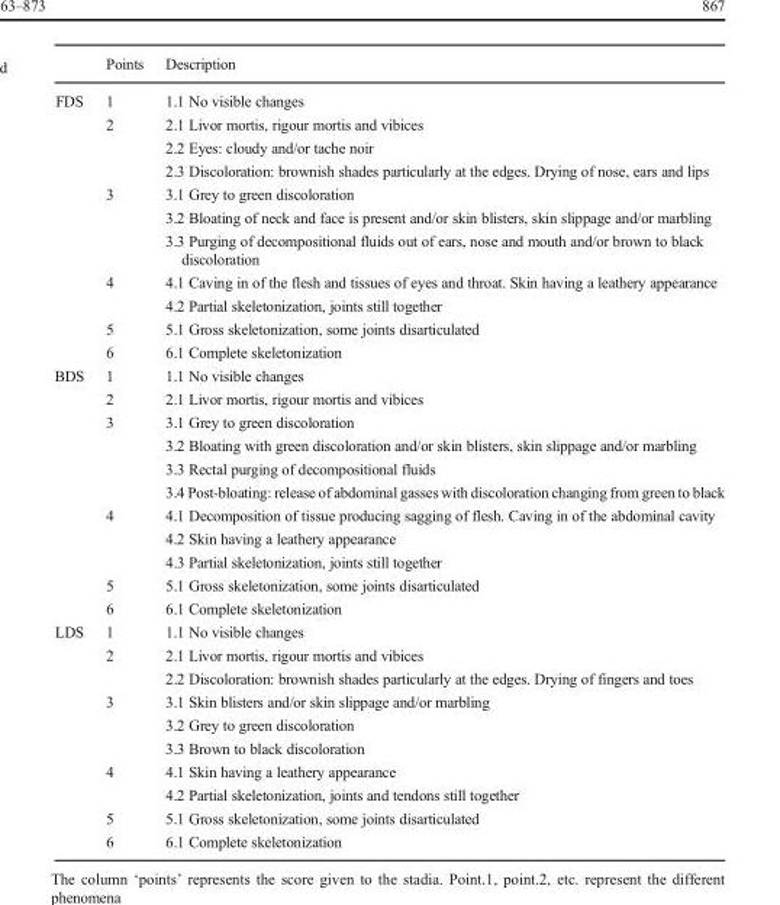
<table><thead><tr><td></td><td>Points</td><td>Description</td></tr></thead><tbody><tr><td rowspan="11">FDS</td><td>1</td><td>1.1 No visible changes</td></tr><tr><td rowspan="3">2</td><td>2.1 Livor mortis, rigour mortis and vibices</td></tr><tr><td>2.2 Eyes: cloudy and/or tache noir</td></tr><tr><td>2.3 Discoloration: brownish shades particularly at the edges. Drying of nose, ears and lips</td></tr><tr><td rowspan="3">3</td><td>3.1 Grey to green discoloration</td></tr><tr><td>3.2 Bloating of neck and face is present and/or skin blisters, skin slippage and/or marbling</td></tr><tr><td>3.3 Purging of decompositional fluids out of ears, nose and mouth and/or brown to black discoloration</td></tr><tr><td rowspan="2">4</td><td>4.1 Caving in of the flesh and tissues of eyes and throat. Skin having a leathery appearance</td></tr><tr><td>4.2 Partial skeletonization, joints still together</td></tr><tr><td>5</td><td>5.1 Gross skeletonization, some joints disarticulated</td></tr><tr><td>6</td><td>6.1 Complete skeletonization</td></tr><tr><td rowspan="11">BDS</td><td>1</td><td>1.1 No visible changes</td></tr><tr><td>2</td><td>2.1 Livor mortis, rigour mortis and vibices</td></tr><tr><td rowspan="4">3</td><td>3.1 Grey to green discoloration</td></tr><tr><td>3.2 Bloating with green discoloration and/or skin blisters, skin slippage and/or marbling</td></tr><tr><td>3.3 Rectal purging of decompositional fluids</td></tr><tr><td>3.4 Post-bloating: release of abdominal gasses with discoloration changing from green to black</td></tr><tr><td rowspan="3">4</td><td>4.1 Decomposition of tissue producing sagging of flesh. Caving in of the abdominal cavity</td></tr><tr><td>4.2 Skin having a leathery appearance</td></tr><tr><td>4.3 Partial skeletonization, joints still together</td></tr><tr><td>5</td><td>5.1 Gross skeletonization, some joints disarticulated</td></tr><tr><td>6</td><td>6.1 Complete skeletonization</td></tr><tr><td rowspan="10">LDS</td><td>1</td><td>1.1 No visible changes</td></tr><tr><td rowspan="2">2</td><td>2.1 Livor mortis, rigour mortis and vibices</td></tr><tr><td>2.2 Discoloration: brownish shades particularly at the edges. Drying of fingers and toes</td></tr><tr><td rowspan="3">3</td><td>3.1 Skin blisters and/or skin slippage and/or marbling</td></tr><tr><td>3.2 Grey to green discoloration</td></tr><tr><td>3.3 Brown to black discoloration</td></tr><tr><td>4</td><td>4.1 Skin having a leathery appearance</td></tr><tr><td></td><td>4.2 Partial skeletonization, joints and tendons still together</td></tr><tr><td>5</td><td>5.1 Gross skeletonization, some joints disarticulated</td></tr><tr><td>6</td><td>6.1 Complete skeletonization</td></tr></tbody></table>